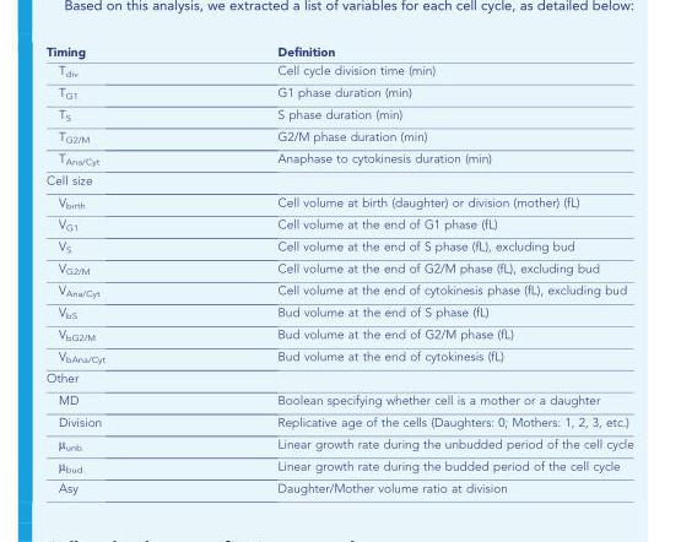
<table><thead><tr><td>Timing</td><td>Definition</td></tr></thead><tbody><tr><td>T<sub>div</sub></td><td>Cell cycle division time (min)</td></tr><tr><td>T<sub>G1</sub></td><td>G1 phase duration (min)</td></tr><tr><td>T<sub>S</sub></td><td>S phase duration (min)</td></tr><tr><td>T<sub>G2/M</sub></td><td>G2/M phase duration (min)</td></tr><tr><td>T<sub>Ana/Cyt</sub></td><td>Anaphase to cytokinesis duration (min)</td></tr><tr><td colspan="2">Cell size</td></tr><tr><td>V<sub>birth</sub></td><td>Cell volume at birth (daughter) or division (mother) (fL)</td></tr><tr><td>V<sub>G1</sub></td><td>Cell volume at the end of G1 phase (fL)</td></tr><tr><td>V<sub>S</sub></td><td>Cell volume at the end of S phase (fL), excluding bud</td></tr><tr><td>V<sub>G2/M</sub></td><td>Cell volume at the end of G2/M phase (fL), excluding bud</td></tr><tr><td>V<sub>Ana/Cyt</sub></td><td>Cell volume at the end of cytokinesis phase (fL), excluding bud</td></tr><tr><td>V<sub>bS</sub></td><td>Bud volume at the end of S phase (fL)</td></tr><tr><td>V<sub>bG2/M</sub></td><td>Bud volume at the end of G2/M phase (fL)</td></tr><tr><td>V<sub>bAna/Cyt</sub></td><td>Bud volume at the end of cytokinesis (fL)</td></tr><tr><td colspan="2">Other</td></tr><tr><td>MD</td><td>Boolean specifying whether cell is a mother or a daughter</td></tr><tr><td>Division</td><td>Replicative age of the cells (Daughters: 0; Mothers: 1, 2, 3, etc.)</td></tr><tr><td>μ<sub>unb.</sub></td><td>Linear growth rate during the unbudded period of the cell cycle</td></tr><tr><td>μ<sub>bud.</sub></td><td>Linear growth rate during the budded period of the cell cycle</td></tr><tr><td>Asy</td><td>Daughter/Mother volume ratio at division</td></tr></tbody></table>